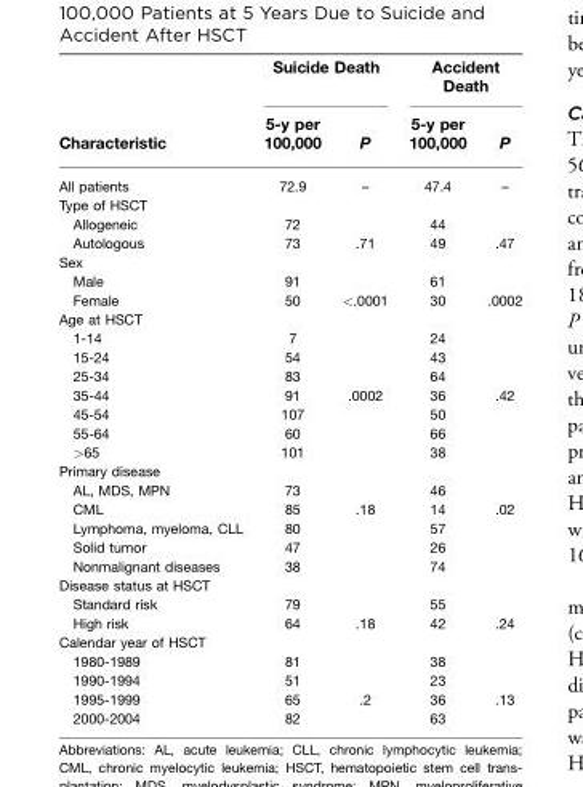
<table><thead><tr><td rowspan="2">Characteristic</td><td colspan="2">Suicide Death</td><td colspan="2">Accident Death</td></tr><tr><td>5-y per 100,000</td><td>P</td><td>5-y per 100,000</td><td>P</td></tr></thead><tbody><tr><td>All patients</td><td>72.9</td><td>–</td><td>47.4</td><td>–</td></tr><tr><td colspan="5">Type of HSCT</td></tr><tr><td>Allogeneic</td><td>72</td><td></td><td>44</td><td></td></tr><tr><td>Autologous</td><td>73</td><td>.71</td><td>49</td><td>.47</td></tr><tr><td colspan="5">Sex</td></tr><tr><td>Male</td><td>91</td><td></td><td>61</td><td></td></tr><tr><td>Female</td><td>50</td><td>&lt;.0001</td><td>30</td><td>.0002</td></tr><tr><td colspan="5">Age at HSCT</td></tr><tr><td>1-14</td><td>7</td><td></td><td>24</td><td></td></tr><tr><td>15-24</td><td>54</td><td></td><td>43</td><td></td></tr><tr><td>25-34</td><td>83</td><td></td><td>64</td><td></td></tr><tr><td>35-44</td><td>91</td><td>.0002</td><td>36</td><td>.42</td></tr><tr><td>45-54</td><td>107</td><td></td><td>50</td><td></td></tr><tr><td>55-64</td><td>60</td><td></td><td>66</td><td></td></tr><tr><td>&gt;65</td><td>101</td><td></td><td>38</td><td></td></tr><tr><td colspan="5">Primary disease</td></tr><tr><td>AL, MDS, MPN</td><td>73</td><td></td><td>46</td><td></td></tr><tr><td>CML</td><td>85</td><td>.18</td><td>14</td><td>.02</td></tr><tr><td>Lymphoma, myeloma, CLL</td><td>80</td><td></td><td>57</td><td></td></tr><tr><td>Solid tumor</td><td>47</td><td></td><td>26</td><td></td></tr><tr><td>Nonmalignant diseases</td><td>38</td><td></td><td>74</td><td></td></tr><tr><td colspan="5">Disease status at HSCT</td></tr><tr><td>Standard risk</td><td>79</td><td></td><td>55</td><td></td></tr><tr><td>High risk</td><td>64</td><td>.18</td><td>42</td><td>.24</td></tr><tr><td colspan="5">Calendar year of HSCT</td></tr><tr><td>1980-1989</td><td>81</td><td></td><td>38</td><td></td></tr><tr><td>1990-1994</td><td>51</td><td></td><td>23</td><td></td></tr><tr><td>1995-1999</td><td>65</td><td>.2</td><td>36</td><td>.13</td></tr><tr><td>2000-2004</td><td>82</td><td></td><td>63</td><td></td></tr></tbody></table>